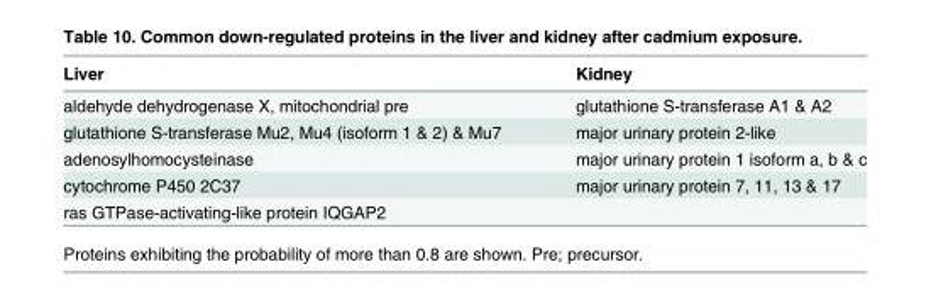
<table><thead><tr><td>Liver</td><td>Kidney</td></tr></thead><tbody><tr><td>aldehyde dehydrogenase X, mitochondrial pre</td><td>glutathione S-transferase A1 &amp; A2</td></tr><tr><td>glutathione S-transferase Mu2, Mu4 (isoform 1 &amp; 2) &amp; Mu7</td><td>major urinary protein 2-like</td></tr><tr><td>adenosylhomocysteinase</td><td>major urinary protein 1 isoform a, b &amp; c</td></tr><tr><td>cytochrome P450 2C37</td><td>major urinary protein 7, 11, 13 &amp; 17</td></tr><tr><td>ras GTPase-activating-like protein IQGAP2</td><td></td></tr></tbody></table>